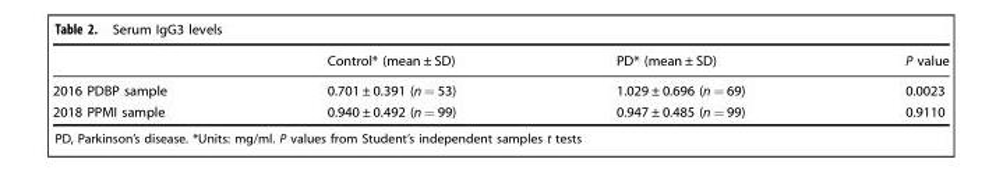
<table><thead><tr><td></td><td>Control* (mean ± SD)</td><td>PD* (mean ± SD)</td><td>P value</td></tr></thead><tbody><tr><td>2016 PDBP sample</td><td>0.701 ± 0.391 (n = 53)</td><td>1.029 ± 0.696 (n = 69)</td><td>0.0023</td></tr><tr><td>2018 PPMI sample</td><td>0.940 ± 0.492 (n = 99)</td><td>0.947 ± 0.485 (n = 99)</td><td>0.9110</td></tr></tbody></table>